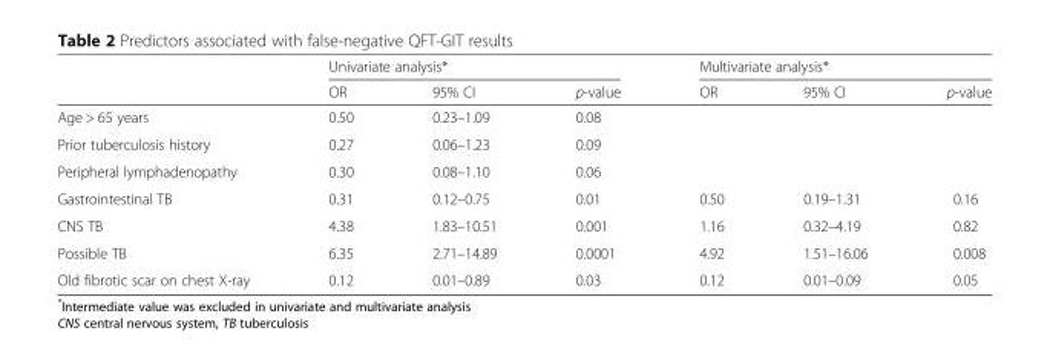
<table><thead><tr><td rowspan="2"></td><td colspan="3">Univariate analysis*</td><td colspan="3">Multivariate analysis*</td></tr><tr><td>OR</td><td>95% CI</td><td>p-value</td><td>OR</td><td>95% CI</td><td>p-value</td></tr></thead><tbody><tr><td>Age &gt; 65 years</td><td>0.50</td><td>0.23–1.09</td><td>0.08</td><td></td><td></td><td></td></tr><tr><td>Prior tuberculosis history</td><td>0.27</td><td>0.06–1.23</td><td>0.09</td><td></td><td></td><td></td></tr><tr><td>Peripheral lymphadenopathy</td><td>0.30</td><td>0.08–1.10</td><td>0.06</td><td></td><td></td><td></td></tr><tr><td>Gastrointestinal TB</td><td>0.31</td><td>0.12–0.75</td><td>0.01</td><td>0.50</td><td>0.19–1.31</td><td>0.16</td></tr><tr><td>CNS TB</td><td>4.38</td><td>1.83–10.51</td><td>0.001</td><td>1.16</td><td>0.32–4.19</td><td>0.82</td></tr><tr><td>Possible TB</td><td>6.35</td><td>2.71–14.89</td><td>0.0001</td><td>4.92</td><td>1.51–16.06</td><td>0.008</td></tr><tr><td>Old fibrotic scar on chest X-ray</td><td>0.12</td><td>0.01–0.89</td><td>0.03</td><td>0.12</td><td>0.01–0.09</td><td>0.05</td></tr></tbody></table>